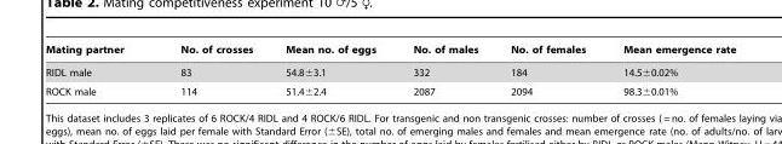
<table><thead><tr><td>Mating partner</td><td>No. of crosses</td><td>Mean no. of eggs</td><td>No. of males</td><td>No. of females</td><td>Mean emergence rate</td></tr></thead><tbody><tr><td>RIDL male</td><td>83</td><td>54.8±3.1</td><td>332</td><td>184</td><td>14.5±0.02%</td></tr><tr><td>ROCK male</td><td>114</td><td>51.4±2.4</td><td>2087</td><td>2094</td><td>98.3±0.01%</td></tr></tbody></table>